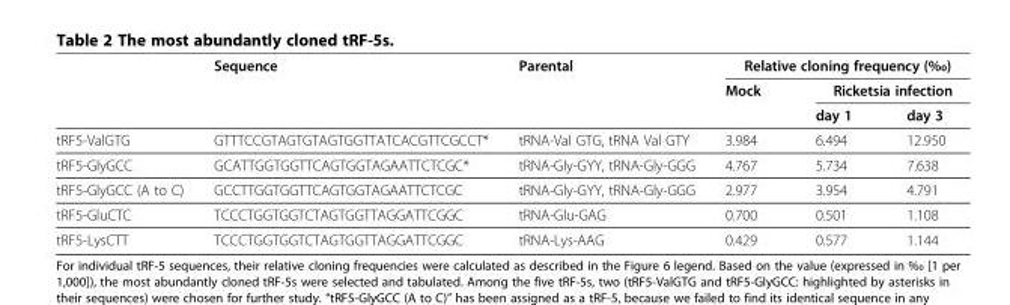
<table><thead><tr><td rowspan="3"></td><td rowspan="3">Sequence</td><td rowspan="3">Parental</td><td colspan="3">Relative cloning frequency (‰)</td></tr><tr><td rowspan="2">Mock</td><td colspan="2">Ricketsia infection</td></tr><tr><td>day 1</td><td>day 3</td></tr></thead><tbody><tr><td>tRF5-ValGTG</td><td>GTTTCCGTAGTGTAGTGGTTATCACGTTCGCCT*</td><td>tRNA-Val GTG, tRNA Val GTY</td><td>3.984</td><td>6.494</td><td>12.950</td></tr><tr><td>tRF5-GlyGCC</td><td>GCATTGGTGGTTCAGTGGTAGAATTCTCGC*</td><td>tRNA-Gly-GYY, tRNA-Gly-GGG</td><td>4.767</td><td>5.734</td><td>7.638</td></tr><tr><td>tRF5-GlyGCC (A to C)</td><td>GCCTTGGTGGTTCAGTGGTAGAATTCTCGC</td><td>tRNA-Gly-GYY, tRNA-Gly-GGG</td><td>2.977</td><td>3.954</td><td>4.791</td></tr><tr><td>tRF5-GluCTC</td><td>TCCCTGGTGGTCTAGTGGTTAGGATTCGGC</td><td>tRNA-Glu-GAG</td><td>0.700</td><td>0.501</td><td>1.108</td></tr><tr><td>tRF5-LysCTT</td><td>TCCCTGGTGGTCTAGTGGTTAGGATTCGGC</td><td>tRNA-Lys-AAG</td><td>0.429</td><td>0.577</td><td>1.144</td></tr></tbody></table>